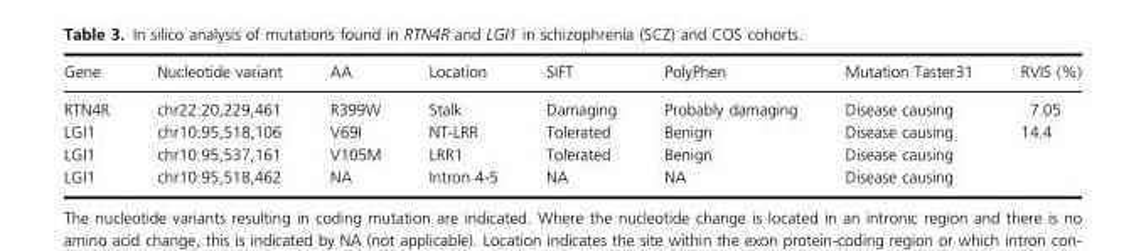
<table><thead><tr><td>Gene</td><td>Nucleotide variant</td><td>AA</td><td>Location</td><td>SIFT</td><td>PolyPhen</td><td>Mutation Taster31</td><td>RVIS (%)</td></tr></thead><tbody><tr><td>RTN4R</td><td>chr22:20,229,461</td><td>R399W</td><td>Stalk</td><td>Damaging</td><td>Probably damaging</td><td>Disease causing</td><td>7.05</td></tr><tr><td>LGI1</td><td>chr10:95,518,106</td><td>V69I</td><td>NT-LRR</td><td>Tolerated</td><td>Benign</td><td>Disease causing</td><td rowspan="3">14.4</td></tr><tr><td>LGI1</td><td>chr10:95,537,161</td><td>V105M</td><td>LRR1</td><td>Tolerated</td><td>Benign</td><td>Disease causing</td></tr><tr><td>LGI1</td><td>chr10:95,518,462</td><td>NA</td><td>Intron 4-5</td><td>NA</td><td>NA</td><td>Disease causing</td></tr></tbody></table>